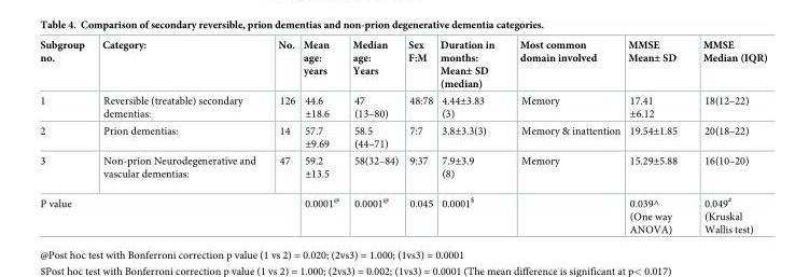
<table><thead><tr><td>Subgroup no.</td><td>Category:</td><td>No.</td><td>Mean age: years</td><td>Median age: Years</td><td>Sex F:M</td><td>Duration in months: Mean± SD (median)</td><td>Most common domain involved</td><td>MMSE Mean± SD</td><td>MMSE Median (IQR)</td></tr></thead><tbody><tr><td>1</td><td>Reversible (treatable) secondary dementias:</td><td>126</td><td>44.6 ±18.6</td><td>47 (13–80)</td><td>48:78</td><td>4.44±3.83 (3)</td><td>Memory</td><td>17.41 ±6.12</td><td>18(12–22)</td></tr><tr><td>2</td><td>Prion dementias:</td><td>14</td><td>57.7 ±9.69</td><td>58.5 (44–71)</td><td>7:7</td><td>3.8±3.3(3)</td><td>Memory &amp; inattention</td><td>19.54±1.85</td><td>20(18–22)</td></tr><tr><td>3</td><td>Non-prion Neurodegenerative and vascular dementias:</td><td>47</td><td>59.2 ±13.5</td><td>58(32–84)</td><td>9:37</td><td>7.9±3.9 (8)</td><td>Memory</td><td>15.29±5.88</td><td>16(10–20)</td></tr><tr><td colspan="3">P value</td><td>0.0001<sup>@</sup></td><td>0.0001<sup>@</sup></td><td>0.045</td><td>0.0001<sup>$</sup></td><td></td><td>0.039^ (One way ANOVA)</td><td>0.049<sup>#</sup> (Kruskal Wallis test)</td></tr></tbody></table>